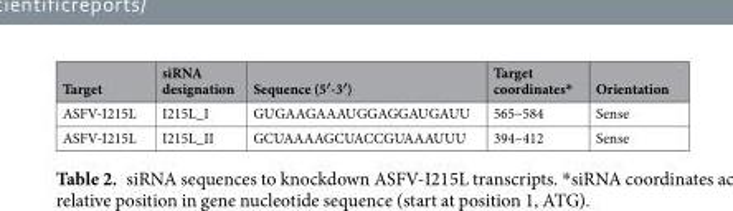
<table><thead><tr><td>Target</td><td>siRNA designation</td><td>Sequence (5′-3′)</td><td>Target coordinates*</td><td>Orientation</td></tr></thead><tbody><tr><td>ASFV-I215L</td><td>I215L_I</td><td>GUGAAGAAAUGGAGGAUGAUU</td><td>565–584</td><td>Sense</td></tr><tr><td>ASFV-I215L</td><td>I215L_II</td><td>GCUAAAAGCUACCGUAAAUUU</td><td>394–412</td><td>Sense</td></tr></tbody></table>